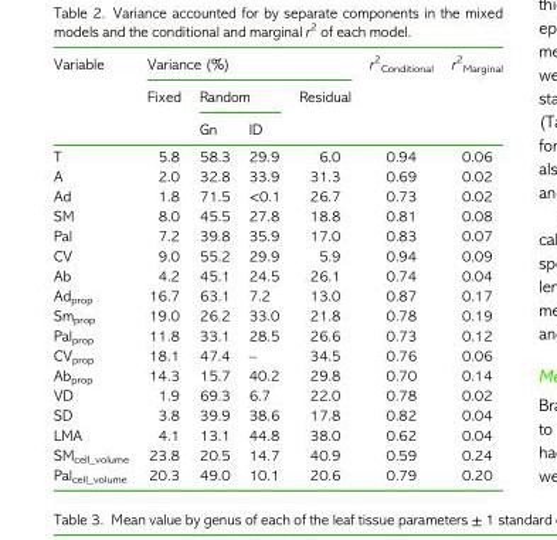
<table><thead><tr><td rowspan="3">Variable</td><td colspan="4">Variance (%)</td><td rowspan="3">r<sup>2</sup> <sub>Conditional</sub></td><td rowspan="3">r<sup>2</sup> <sub>Marginal</sub></td></tr><tr><td rowspan="2">Fixed</td><td colspan="2">Random</td><td rowspan="2">Residual</td></tr><tr><td>Gn</td><td>ID</td></tr></thead><tbody><tr><td>T</td><td>5.8</td><td>58.3</td><td>29.9</td><td>6.0</td><td>0.94</td><td>0.06</td></tr><tr><td>A</td><td>2.0</td><td>32.8</td><td>33.9</td><td>31.3</td><td>0.69</td><td>0.02</td></tr><tr><td>Ad</td><td>1.8</td><td>71.5</td><td>&lt;0.1</td><td>26.7</td><td>0.73</td><td>0.02</td></tr><tr><td>SM</td><td>8.0</td><td>45.5</td><td>27.8</td><td>18.8</td><td>0.81</td><td>0.08</td></tr><tr><td>Pal</td><td>7.2</td><td>39.8</td><td>35.9</td><td>17.0</td><td>0.83</td><td>0.07</td></tr><tr><td>CV</td><td>9.0</td><td>55.2</td><td>29.9</td><td>5.9</td><td>0.94</td><td>0.09</td></tr><tr><td>Ab</td><td>4.2</td><td>45.1</td><td>24.5</td><td>26.1</td><td>0.74</td><td>0.04</td></tr><tr><td>Ad<sub>prop</sub></td><td>16.7</td><td>63.1</td><td>7.2</td><td>13.0</td><td>0.87</td><td>0.17</td></tr><tr><td>Sm<sub>prop</sub></td><td>19.0</td><td>26.2</td><td>33.0</td><td>21.8</td><td>0.78</td><td>0.19</td></tr><tr><td>Pal<sub>prop</sub></td><td>11.8</td><td>33.1</td><td>28.5</td><td>26.6</td><td>0.73</td><td>0.12</td></tr><tr><td>CV<sub>prop</sub></td><td>18.1</td><td>47.4</td><td>–</td><td>34.5</td><td>0.76</td><td>0.06</td></tr><tr><td>Ab<sub>prop</sub></td><td>14.3</td><td>15.7</td><td>40.2</td><td>29.8</td><td>0.70</td><td>0.14</td></tr><tr><td>VD</td><td>1.9</td><td>69.3</td><td>6.7</td><td>22.0</td><td>0.78</td><td>0.02</td></tr><tr><td>SD</td><td>3.8</td><td>39.9</td><td>38.6</td><td>17.8</td><td>0.82</td><td>0.04</td></tr><tr><td>LMA</td><td>4.1</td><td>13.1</td><td>44.8</td><td>38.0</td><td>0.62</td><td>0.04</td></tr><tr><td>SM<sub>cell_volume</sub></td><td>23.8</td><td>20.5</td><td>14.7</td><td>40.9</td><td>0.59</td><td>0.24</td></tr><tr><td>Pal<sub>cell_volume</sub></td><td>20.3</td><td>49.0</td><td>10.1</td><td>20.6</td><td>0.79</td><td>0.20</td></tr></tbody></table>